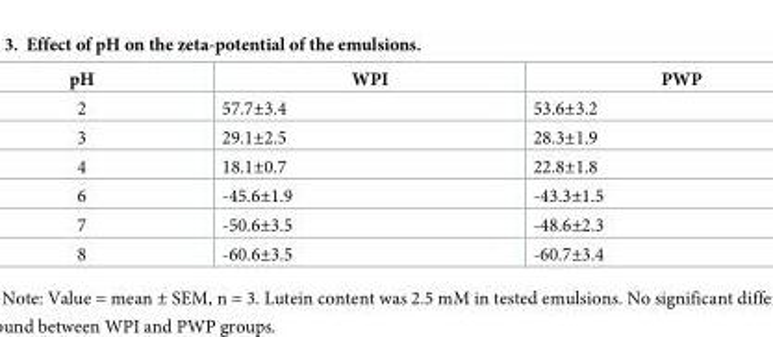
<table><thead><tr><td>pH</td><td>WPI</td><td>PWP</td></tr></thead><tbody><tr><td>2</td><td>57.7±3.4</td><td>53.6±3.2</td></tr><tr><td>3</td><td>29.1±2.5</td><td>28.3±1.9</td></tr><tr><td>4</td><td>18.1±0.7</td><td>22.8±1.8</td></tr><tr><td>6</td><td>-45.6±1.9</td><td>-43.3±1.5</td></tr><tr><td>7</td><td>-50.6±3.5</td><td>-48.6±2.3</td></tr><tr><td>8</td><td>-60.6±3.5</td><td>-60.7±3.4</td></tr></tbody></table>